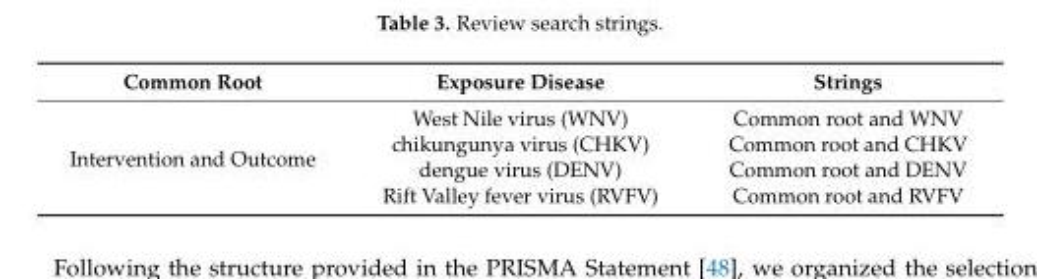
<table><thead><tr><td>Common Root</td><td>Exposure Disease</td><td>Strings</td></tr></thead><tbody><tr><td rowspan="4">Intervention and Outcome</td><td>West Nile virus (WNV)</td><td>Common root and WNV</td></tr><tr><td>chikungunya virus (CHKV)</td><td>Common root and CHKV</td></tr><tr><td>dengue virus (DENV)</td><td>Common root and DENV</td></tr><tr><td>Rift Valley fever virus (RVFV)</td><td>Common root and RVFV</td></tr></tbody></table>